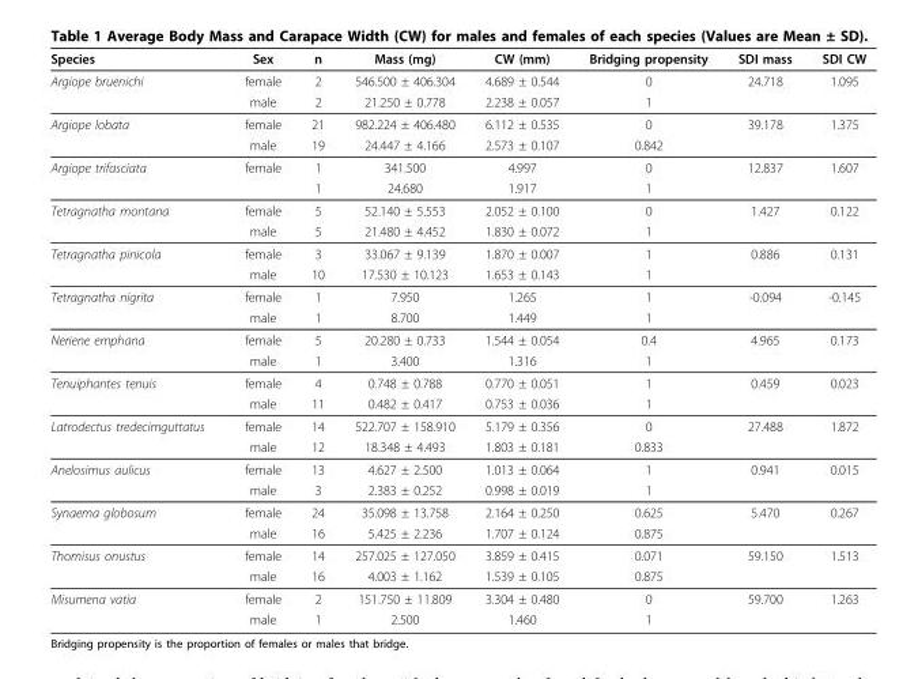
<table><thead><tr><td>Species</td><td>Sex</td><td>n</td><td>Mass (mg)</td><td>CW (mm)</td><td>Bridging propensity</td><td>SDI mass</td><td>SDI CW</td></tr></thead><tbody><tr><td rowspan="2">Argiope bruenichi</td><td>female</td><td>2</td><td>546.500 ± 406.304</td><td>4.689 ± 0.544</td><td>0</td><td>24.718</td><td>1.095</td></tr><tr><td>male</td><td>2</td><td>21.250 ± 0.778</td><td>2.238 ± 0.057</td><td>1</td><td></td><td></td></tr><tr><td rowspan="2">Argiope lobata</td><td>female</td><td>21</td><td>982.224 ± 406.480</td><td>6.112 ± 0.535</td><td>0</td><td>39.178</td><td>1.375</td></tr><tr><td>male</td><td>19</td><td>24.447 ± 4.166</td><td>2.573 ± 0.107</td><td>0.842</td><td></td><td></td></tr><tr><td rowspan="2">Argiope trifasciata</td><td>female</td><td>1</td><td>341.500</td><td>4.997</td><td>0</td><td>12.837</td><td>1.607</td></tr><tr><td></td><td>1</td><td>24.680</td><td>1.917</td><td>1</td><td></td><td></td></tr><tr><td rowspan="2">Tetragnatha montana</td><td>female</td><td>5</td><td>52.140 ± 5.553</td><td>2.052 ± 0.100</td><td>0</td><td>1.427</td><td>0.122</td></tr><tr><td>male</td><td>5</td><td>21.480 ± 4.452</td><td>1.830 ± 0.072</td><td>1</td><td></td><td></td></tr><tr><td rowspan="2">Tetragnatha pinicola</td><td>female</td><td>3</td><td>33.067 ± 9.139</td><td>1.870 ± 0.007</td><td>1</td><td>0.886</td><td>0.131</td></tr><tr><td>male</td><td>10</td><td>17.530 ± 10.123</td><td>1.653 ± 0.143</td><td>1</td><td></td><td></td></tr><tr><td rowspan="2">Tetragnatha nigrita</td><td>female</td><td>1</td><td>7.950</td><td>1.265</td><td>1</td><td>-0.094</td><td>-0.145</td></tr><tr><td>male</td><td>1</td><td>8.700</td><td>1.449</td><td>1</td><td></td><td></td></tr><tr><td rowspan="2">Neriene emphana</td><td>female</td><td>5</td><td>20.280 ± 0.733</td><td>1.544 ± 0.054</td><td>0.4</td><td>4.965</td><td>0.173</td></tr><tr><td>male</td><td>1</td><td>3.400</td><td>1.316</td><td>1</td><td></td><td></td></tr><tr><td rowspan="2">Tenuiphantes tenuis</td><td>female</td><td>4</td><td>0.748 ± 0.788</td><td>0.770 ± 0.051</td><td>1</td><td>0.459</td><td>0.023</td></tr><tr><td>male</td><td>11</td><td>0.482 ± 0.417</td><td>0.753 ± 0.036</td><td>1</td><td></td><td></td></tr><tr><td rowspan="2">Latrodectus tredecimguttatus</td><td>female</td><td>14</td><td>522.707 ± 158.910</td><td>5.179 ± 0.356</td><td>0</td><td>27.488</td><td>1.872</td></tr><tr><td>male</td><td>12</td><td>18.348 ± 4.493</td><td>1.803 ± 0.181</td><td>0.833</td><td></td><td></td></tr><tr><td rowspan="2">Anelosimus aulicus</td><td>female</td><td>13</td><td>4.627 ± 2.500</td><td>1.013 ± 0.064</td><td>1</td><td>0.941</td><td>0.015</td></tr><tr><td>male</td><td>3</td><td>2.383 ± 0.252</td><td>0.998 ± 0.019</td><td>1</td><td></td><td></td></tr><tr><td rowspan="2">Synaema globosum</td><td>female</td><td>24</td><td>35.098 ± 13.758</td><td>2.164 ± 0.250</td><td>0.625</td><td>5.470</td><td>0.267</td></tr><tr><td>male</td><td>16</td><td>5.425 ± 2.236</td><td>1.707 ± 0.124</td><td>0.875</td><td></td><td></td></tr><tr><td rowspan="2">Thomisus onustus</td><td>female</td><td>14</td><td>257.025 ± 127.050</td><td>3.859 ± 0.415</td><td>0.071</td><td>59.150</td><td>1.513</td></tr><tr><td>male</td><td>16</td><td>4.003 ± 1.162</td><td>1.539 ± 0.105</td><td>0.875</td><td></td><td></td></tr><tr><td rowspan="2">Misumena vatia</td><td>female</td><td>2</td><td>151.750 ± 11.809</td><td>3.304 ± 0.480</td><td>0</td><td>59.700</td><td>1.263</td></tr><tr><td>male</td><td>1</td><td>2.500</td><td>1.460</td><td>1</td><td></td><td></td></tr></tbody></table>